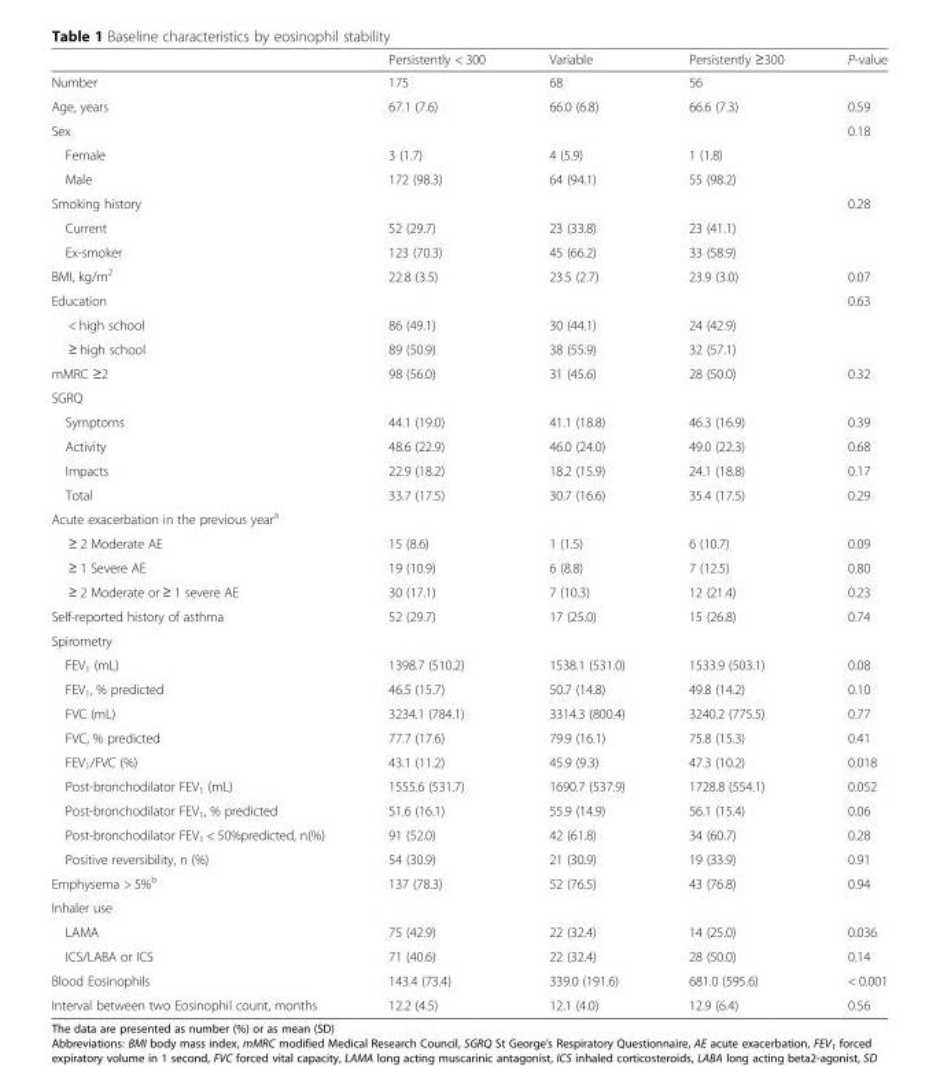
<table><thead><tr><td></td><td>Persistently &lt; 300</td><td>Variable</td><td>Persistently ≥300</td><td>P-value</td></tr></thead><tbody><tr><td>Number</td><td>175</td><td>68</td><td>56</td><td></td></tr><tr><td>Age, years</td><td>67.1 (7.6)</td><td>66.0 (6.8)</td><td>66.6 (7.3)</td><td>0.59</td></tr><tr><td>Sex</td><td></td><td></td><td></td><td>0.18</td></tr><tr><td>Female</td><td>3 (1.7)</td><td>4 (5.9)</td><td>1 (1.8)</td><td></td></tr><tr><td>Male</td><td>172 (98.3)</td><td>64 (94.1)</td><td>55 (98.2)</td><td></td></tr><tr><td>Smoking history</td><td></td><td></td><td></td><td>0.28</td></tr><tr><td>Current</td><td>52 (29.7)</td><td>23 (33.8)</td><td>23 (41.1)</td><td></td></tr><tr><td>Ex-smoker</td><td>123 (70.3)</td><td>45 (66.2)</td><td>33 (58.9)</td><td></td></tr><tr><td>BMI, kg/m<sup>2</sup></td><td>22.8 (3.5)</td><td>23.5 (2.7)</td><td>23.9 (3.0)</td><td>0.07</td></tr><tr><td>Education</td><td></td><td></td><td></td><td>0.63</td></tr><tr><td>&lt; high school</td><td>86 (49.1)</td><td>30 (44.1)</td><td>24 (42.9)</td><td></td></tr><tr><td>≥ high school</td><td>89 (50.9)</td><td>38 (55.9)</td><td>32 (57.1)</td><td></td></tr><tr><td>mMRC ≥2</td><td>98 (56.0)</td><td>31 (45.6)</td><td>28 (50.0)</td><td>0.32</td></tr><tr><td colspan="5">SGRQ</td></tr><tr><td>Symptoms</td><td>44.1 (19.0)</td><td>41.1 (18.8)</td><td>46.3 (16.9)</td><td>0.39</td></tr><tr><td>Activity</td><td>48.6 (22.9)</td><td>46.0 (24.0)</td><td>49.0 (22.3)</td><td>0.68</td></tr><tr><td>Impacts</td><td>22.9 (18.2)</td><td>18.2 (15.9)</td><td>24.1 (18.8)</td><td>0.17</td></tr><tr><td>Total</td><td>33.7 (17.5)</td><td>30.7 (16.6)</td><td>35.4 (17.5)</td><td>0.29</td></tr><tr><td colspan="5">Acute exacerbation in the previous year<sup>a</sup></td></tr><tr><td>≥ 2 Moderate AE</td><td>15 (8.6)</td><td>1 (1.5)</td><td>6 (10.7)</td><td>0.09</td></tr><tr><td>≥ 1 Severe AE</td><td>19 (10.9)</td><td>6 (8.8)</td><td>7 (12.5)</td><td>0.80</td></tr><tr><td>≥ 2 Moderate or ≥ 1 severe AE</td><td>30 (17.1)</td><td>7 (10.3)</td><td>12 (21.4)</td><td>0.23</td></tr><tr><td>Self-reported history of asthma</td><td>52 (29.7)</td><td>17 (25.0)</td><td>15 (26.8)</td><td>0.74</td></tr><tr><td colspan="5">Spirometry</td></tr><tr><td>FEV<sub>1</sub> (mL)</td><td>1398.7 (510.2)</td><td>1538.1 (531.0)</td><td>1533.9 (503.1)</td><td>0.08</td></tr><tr><td>FEV<sub>1</sub>, % predicted</td><td>46.5 (15.7)</td><td>50.7 (14.8)</td><td>49.8 (14.2)</td><td>0.10</td></tr><tr><td>FVC (mL)</td><td>3234.1 (784.1)</td><td>3314.3 (800.4)</td><td>3240.2 (775.5)</td><td>0.77</td></tr><tr><td>FVC, % predicted</td><td>77.7 (17.6)</td><td>79.9 (16.1)</td><td>75.8 (15.3)</td><td>0.41</td></tr><tr><td>FEV<sub>1</sub>/FVC (%)</td><td>43.1 (11.2)</td><td>45.9 (9.3)</td><td>47.3 (10.2)</td><td>0.018</td></tr><tr><td>Post-bronchodilator FEV<sub>1</sub> (mL)</td><td>1555.6 (531.7)</td><td>1690.7 (537.9)</td><td>1728.8 (554.1)</td><td>0.052</td></tr><tr><td>Post-bronchodilator FEV<sub>1</sub>, % predicted</td><td>51.6 (16.1)</td><td>55.9 (14.9)</td><td>56.1 (15.4)</td><td>0.06</td></tr><tr><td>Post-bronchodilator FEV<sub>1</sub> &lt; 50%predicted, n(%)</td><td>91 (52.0)</td><td>42 (61.8)</td><td>34 (60.7)</td><td>0.28</td></tr><tr><td>Positive reversibility, n (%)</td><td>54 (30.9)</td><td>21 (30.9)</td><td>19 (33.9)</td><td>0.91</td></tr><tr><td>Emphysema &gt; 5%<sup>b</sup></td><td>137 (78.3)</td><td>52 (76.5)</td><td>43 (76.8)</td><td>0.94</td></tr><tr><td colspan="5">Inhaler use</td></tr><tr><td>LAMA</td><td>75 (42.9)</td><td>22 (32.4)</td><td>14 (25.0)</td><td>0.036</td></tr><tr><td>ICS/LABA or ICS</td><td>71 (40.6)</td><td>22 (32.4)</td><td>28 (50.0)</td><td>0.14</td></tr><tr><td>Blood Eosinophils</td><td>143.4 (73.4)</td><td>339.0 (191.6)</td><td>681.0 (595.6)</td><td>&lt; 0.001</td></tr><tr><td>Interval between two Eosinophil count, months</td><td>12.2 (4.5)</td><td>12.1 (4.0)</td><td>12.9 (6.4)</td><td>0.56</td></tr></tbody></table>